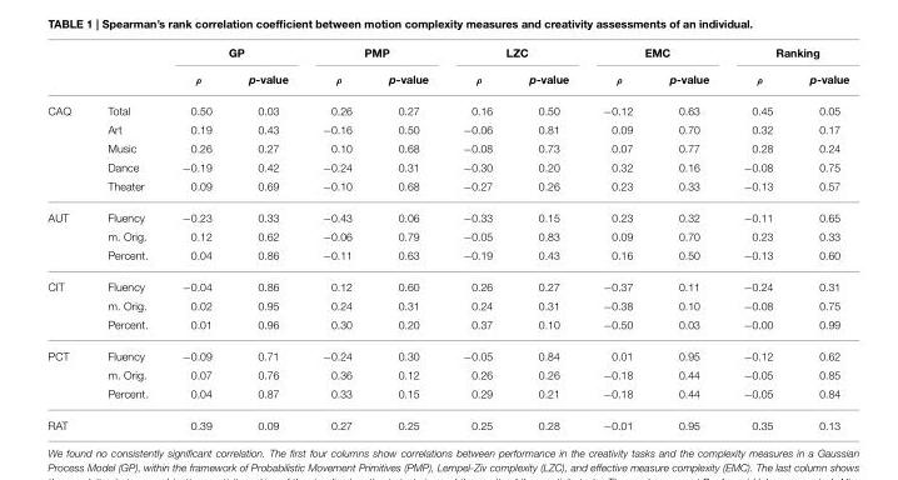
<table><thead><tr><td rowspan="2"></td><td rowspan="2"></td><td colspan="2">GP</td><td colspan="2">PMP</td><td colspan="2">LZC</td><td colspan="2">EMC</td><td colspan="2">Ranking</td></tr><tr><td>ρ</td><td>p-value</td><td>ρ</td><td>p-value</td><td>ρ</td><td>p-value</td><td>ρ</td><td>p-value</td><td>ρ</td><td>p-value</td></tr></thead><tbody><tr><td rowspan="5">CAQ</td><td>Total</td><td>0.50</td><td>0.03</td><td>0.26</td><td>0.27</td><td>0.16</td><td>0.50</td><td>−0.12</td><td>0.63</td><td>0.45</td><td>0.05</td></tr><tr><td>Art</td><td>0.19</td><td>0.43</td><td>−0.16</td><td>0.50</td><td>−0.06</td><td>0.81</td><td>0.09</td><td>0.70</td><td>0.32</td><td>0.17</td></tr><tr><td>Music</td><td>0.26</td><td>0.27</td><td>0.10</td><td>0.68</td><td>−0.08</td><td>0.73</td><td>0.07</td><td>0.77</td><td>0.28</td><td>0.24</td></tr><tr><td>Dance</td><td>−0.19</td><td>0.42</td><td>−0.24</td><td>0.31</td><td>−0.30</td><td>0.20</td><td>0.32</td><td>0.16</td><td>−0.08</td><td>0.75</td></tr><tr><td>Theater</td><td>0.09</td><td>0.69</td><td>−0.10</td><td>0.68</td><td>−0.27</td><td>0.26</td><td>0.23</td><td>0.33</td><td>−0.13</td><td>0.57</td></tr><tr><td rowspan="3">AUT</td><td>Fluency</td><td>−0.23</td><td>0.33</td><td>−0.43</td><td>0.06</td><td>−0.33</td><td>0.15</td><td>0.23</td><td>0.32</td><td>−0.11</td><td>0.65</td></tr><tr><td>m. Orig.</td><td>0.12</td><td>0.62</td><td>−0.06</td><td>0.79</td><td>−0.05</td><td>0.83</td><td>0.09</td><td>0.70</td><td>0.23</td><td>0.33</td></tr><tr><td>Percent.</td><td>0.04</td><td>0.86</td><td>−0.11</td><td>0.63</td><td>−0.19</td><td>0.43</td><td>0.16</td><td>0.50</td><td>−0.13</td><td>0.60</td></tr><tr><td rowspan="3">CIT</td><td>Fluency</td><td>−0.04</td><td>0.86</td><td>0.12</td><td>0.60</td><td>0.26</td><td>0.27</td><td>−0.37</td><td>0.11</td><td>−0.24</td><td>0.31</td></tr><tr><td>m. Orig.</td><td>0.02</td><td>0.95</td><td>0.24</td><td>0.31</td><td>0.24</td><td>0.31</td><td>−0.38</td><td>0.10</td><td>−0.08</td><td>0.75</td></tr><tr><td>Percent.</td><td>0.01</td><td>0.96</td><td>0.30</td><td>0.20</td><td>0.37</td><td>0.10</td><td>−0.50</td><td>0.03</td><td>−0.00</td><td>0.99</td></tr><tr><td rowspan="3">PCT</td><td>Fluency</td><td>−0.09</td><td>0.71</td><td>−0.24</td><td>0.30</td><td>−0.05</td><td>0.84</td><td>0.01</td><td>0.95</td><td>−0.12</td><td>0.62</td></tr><tr><td>m. Orig.</td><td>0.07</td><td>0.76</td><td>0.36</td><td>0.12</td><td>0.26</td><td>0.26</td><td>−0.18</td><td>0.44</td><td>−0.05</td><td>0.85</td></tr><tr><td>Percent.</td><td>0.04</td><td>0.87</td><td>0.33</td><td>0.15</td><td>0.29</td><td>0.21</td><td>−0.18</td><td>0.44</td><td>−0.05</td><td>0.84</td></tr><tr><td colspan="2">RAT</td><td>0.39</td><td>0.09</td><td>0.27</td><td>0.25</td><td>0.25</td><td>0.28</td><td>−0.01</td><td>0.95</td><td>0.35</td><td>0.13</td></tr></tbody></table>